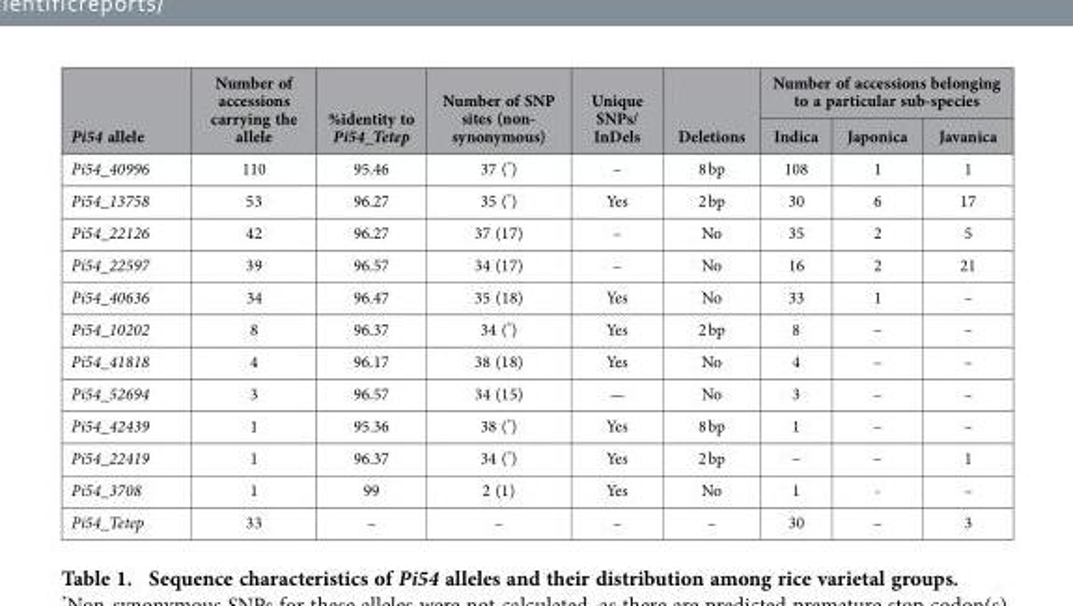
<table><thead><tr><td rowspan="2">Pi54 allele</td><td rowspan="2">Number of accessions carrying the allele</td><td rowspan="2">%identity to Pi54_Tetep</td><td rowspan="2">Number of SNP sites (non- synonymous)</td><td rowspan="2">Unique SNPs/ InDels</td><td rowspan="2">Deletions</td><td colspan="3">Number of accessions belonging to a particular sub-species</td></tr><tr><td>Indica</td><td>Japonica</td><td>Javanica</td></tr></thead><tbody><tr><td>Pi54_40996</td><td>110</td><td>95.46</td><td>37 (*)</td><td>–</td><td>8 bp</td><td>108</td><td>1</td><td>1</td></tr><tr><td>Pi54_13758</td><td>53</td><td>96.27</td><td>35 (*)</td><td>Yes</td><td>2 bp</td><td>30</td><td>6</td><td>17</td></tr><tr><td>Pi54_22126</td><td>42</td><td>96.27</td><td>37 (17)</td><td>–</td><td>No</td><td>35</td><td>2</td><td>5</td></tr><tr><td>Pi54_22597</td><td>39</td><td>96.57</td><td>34 (17)</td><td>–</td><td>No</td><td>16</td><td>2</td><td>21</td></tr><tr><td>Pi54_40636</td><td>34</td><td>96.47</td><td>35 (18)</td><td>Yes</td><td>No</td><td>33</td><td>1</td><td>–</td></tr><tr><td>Pi54_10202</td><td>8</td><td>96.37</td><td>34 (*)</td><td>Yes</td><td>2 bp</td><td>8</td><td>–</td><td>–</td></tr><tr><td>Pi54_41818</td><td>4</td><td>96.17</td><td>38 (18)</td><td>Yes</td><td>No</td><td>4</td><td>–</td><td>–</td></tr><tr><td>Pi54_52694</td><td>3</td><td>96.57</td><td>34 (15)</td><td>—</td><td>No</td><td>3</td><td>–</td><td>–</td></tr><tr><td>Pi54_42439</td><td>1</td><td>95.36</td><td>38 (*)</td><td>Yes</td><td>8 bp</td><td>1</td><td>–</td><td>–</td></tr><tr><td>Pi54_22419</td><td>1</td><td>96.37</td><td>34 (*)</td><td>Yes</td><td>2 bp</td><td>–</td><td>–</td><td>1</td></tr><tr><td>Pi54_3708</td><td>1</td><td>99</td><td>2 (1)</td><td>Yes</td><td>No</td><td>1</td><td>-</td><td>–</td></tr><tr><td>Pi54_Tetep</td><td>33</td><td>–</td><td>–</td><td>–</td><td>–</td><td>30</td><td>–</td><td>3</td></tr></tbody></table>